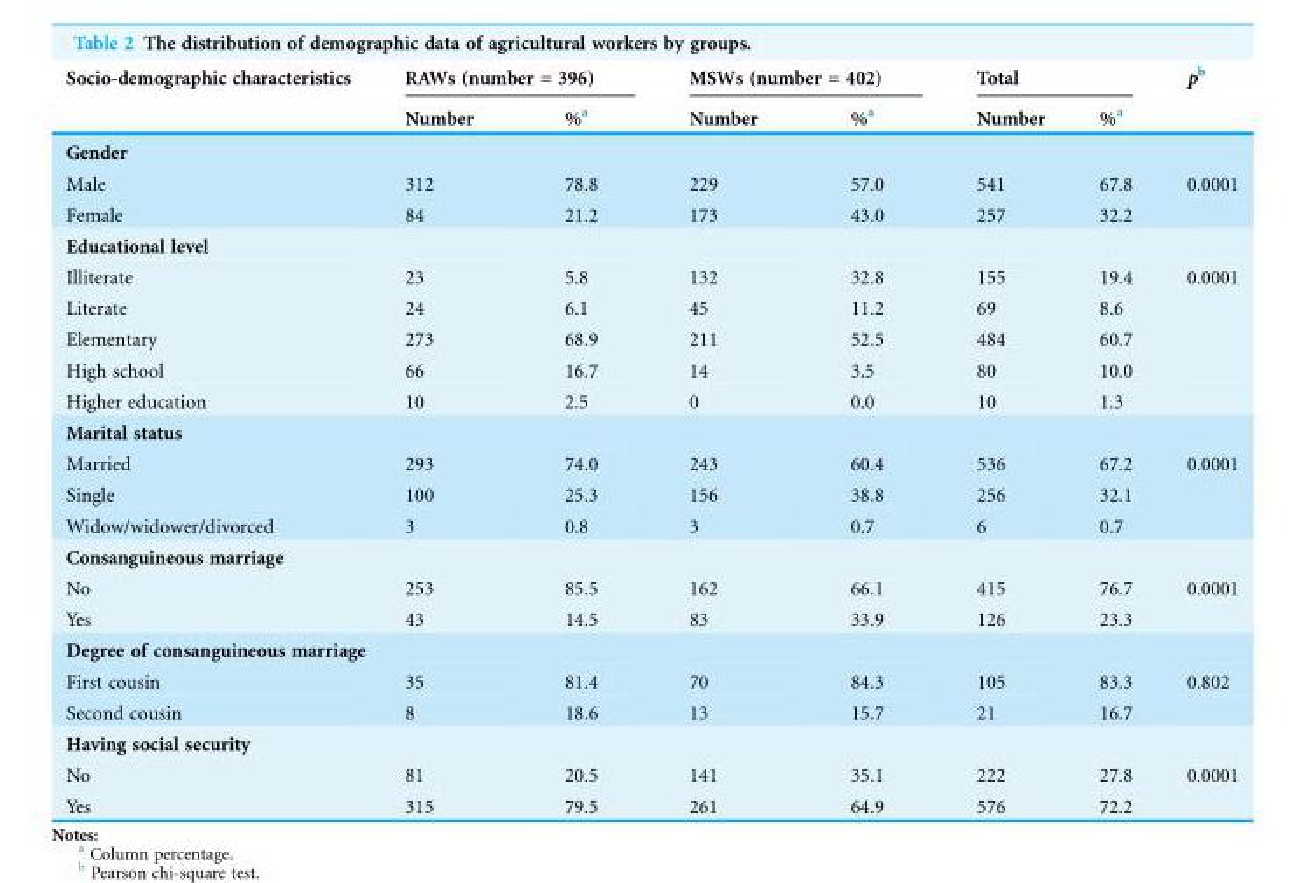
<table><thead><tr><td rowspan="2">Socio-demographic characteristics</td><td colspan="2">RAWs (number = 396)</td><td colspan="2">MSWs (number = 402)</td><td colspan="2">Total</td><td rowspan="2">p<sup>b</sup></td></tr><tr><td>Number</td><td>%<sup>a</sup></td><td>Number</td><td>%<sup>a</sup></td><td>Number</td><td>%<sup>a</sup></td></tr></thead><tbody><tr><td colspan="8">Gender</td></tr><tr><td>Male</td><td>312</td><td>78.8</td><td>229</td><td>57.0</td><td>541</td><td>67.8</td><td>0.0001</td></tr><tr><td>Female</td><td>84</td><td>21.2</td><td>173</td><td>43.0</td><td>257</td><td>32.2</td><td></td></tr><tr><td colspan="8">Educational level</td></tr><tr><td>Illiterate</td><td>23</td><td>5.8</td><td>132</td><td>32.8</td><td>155</td><td>19.4</td><td>0.0001</td></tr><tr><td>Literate</td><td>24</td><td>6.1</td><td>45</td><td>11.2</td><td>69</td><td>8.6</td><td></td></tr><tr><td>Elementary</td><td>273</td><td>68.9</td><td>211</td><td>52.5</td><td>484</td><td>60.7</td><td></td></tr><tr><td>High school</td><td>66</td><td>16.7</td><td>14</td><td>3.5</td><td>80</td><td>10.0</td><td></td></tr><tr><td>Higher education</td><td>10</td><td>2.5</td><td>0</td><td>0.0</td><td>10</td><td>1.3</td><td></td></tr><tr><td colspan="8">Marital status</td></tr><tr><td>Married</td><td>293</td><td>74.0</td><td>243</td><td>60.4</td><td>536</td><td>67.2</td><td>0.0001</td></tr><tr><td>Single</td><td>100</td><td>25.3</td><td>156</td><td>38.8</td><td>256</td><td>32.1</td><td></td></tr><tr><td>Widow/widower/divorced</td><td>3</td><td>0.8</td><td>3</td><td>0.7</td><td>6</td><td>0.7</td><td></td></tr><tr><td colspan="8">Consanguineous marriage</td></tr><tr><td>No</td><td>253</td><td>85.5</td><td>162</td><td>66.1</td><td>415</td><td>76.7</td><td>0.0001</td></tr><tr><td>Yes</td><td>43</td><td>14.5</td><td>83</td><td>33.9</td><td>126</td><td>23.3</td><td></td></tr><tr><td colspan="8">Degree of consanguineous marriage</td></tr><tr><td>First cousin</td><td>35</td><td>81.4</td><td>70</td><td>84.3</td><td>105</td><td>83.3</td><td>0.802</td></tr><tr><td>Second cousin</td><td>8</td><td>18.6</td><td>13</td><td>15.7</td><td>21</td><td>16.7</td><td></td></tr><tr><td colspan="8">Having social security</td></tr><tr><td>No</td><td>81</td><td>20.5</td><td>141</td><td>35.1</td><td>222</td><td>27.8</td><td>0.0001</td></tr><tr><td>Yes</td><td>315</td><td>79.5</td><td>261</td><td>64.9</td><td>576</td><td>72.2</td><td></td></tr></tbody></table>